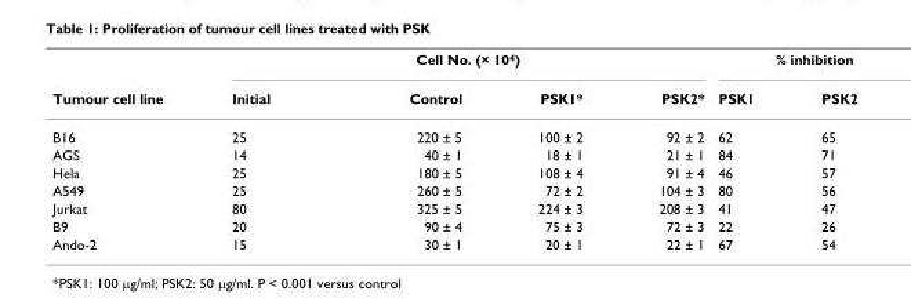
<table><thead><tr><td rowspan="2">Tumour cell line</td><td colspan="4">Cell No. (× 10<sup>4</sup>)</td><td colspan="2">% inhibition</td></tr><tr><td>Initial</td><td>Control</td><td>PSK1*</td><td>PSK2*</td><td>PSK1</td><td>PSK2</td></tr></thead><tbody><tr><td>B16</td><td>25</td><td>220 ± 5</td><td>100 ± 2</td><td>92 ± 2</td><td>62</td><td>65</td></tr><tr><td>AGS</td><td>14</td><td>40 ± 1</td><td>18 ± 1</td><td>21 ± 1</td><td>84</td><td>71</td></tr><tr><td>Hela</td><td>25</td><td>180 ± 5</td><td>108 ± 4</td><td>91 ± 4</td><td>46</td><td>57</td></tr><tr><td>A549</td><td>25</td><td>260 ± 5</td><td>72 ± 2</td><td>104 ± 3</td><td>80</td><td>56</td></tr><tr><td>Jurkat</td><td>80</td><td>325 ± 5</td><td>224 ± 3</td><td>208 ± 3</td><td>41</td><td>47</td></tr><tr><td>B9</td><td>20</td><td>90 ± 4</td><td>75 ± 3</td><td>72 ± 3</td><td>22</td><td>26</td></tr><tr><td>Ando-2</td><td>15</td><td>30 ± 1</td><td>20 ± 1</td><td>22 ± 1</td><td>67</td><td>54</td></tr></tbody></table>